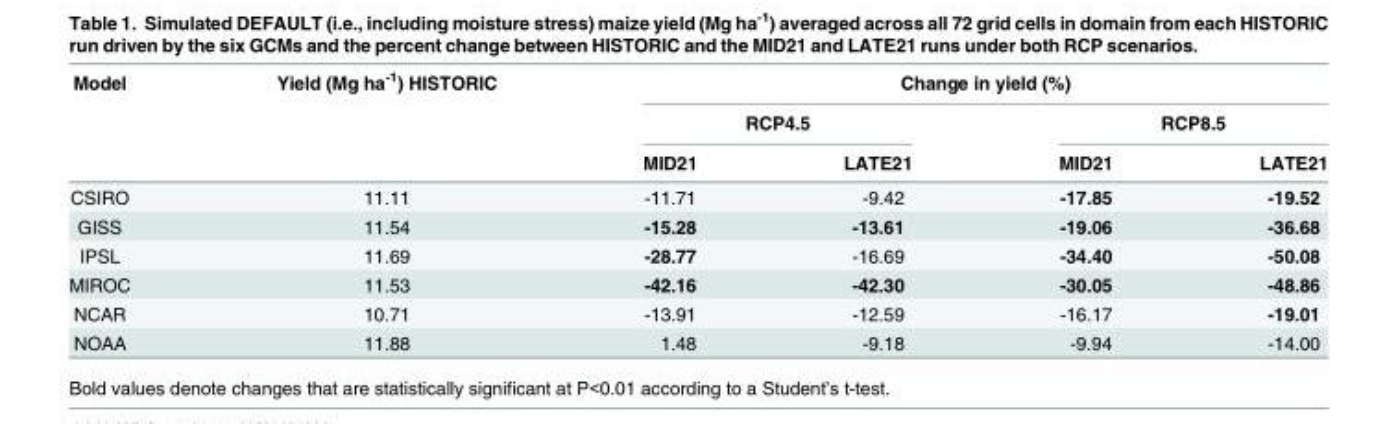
<table><thead><tr><td rowspan="3">Model</td><td rowspan="3">Yield (Mg ha<sup>-1</sup>) HISTORIC</td><td colspan="4">Change in yield (%)</td></tr><tr><td colspan="2">RCP4.5</td><td colspan="2">RCP8.5</td></tr><tr><td>MID21</td><td>LATE21</td><td>MID21</td><td>LATE21</td></tr></thead><tbody><tr><td>CSIRO</td><td>11.11</td><td>-11.71</td><td>-9.42</td><td>-17.85</td><td>-19.52</td></tr><tr><td>GISS</td><td>11.54</td><td>-15.28</td><td>-13.61</td><td>-19.06</td><td>-36.68</td></tr><tr><td>IPSL</td><td>11.69</td><td>-28.77</td><td>-16.69</td><td>-34.40</td><td>-50.08</td></tr><tr><td>MIROC</td><td>11.53</td><td>-42.16</td><td>-42.30</td><td>-30.05</td><td>-48.86</td></tr><tr><td>NCAR</td><td>10.71</td><td>-13.91</td><td>-12.59</td><td>-16.17</td><td>-19.01</td></tr><tr><td>NOAA</td><td>11.88</td><td>1.48</td><td>-9.18</td><td>-9.94</td><td>-14.00</td></tr></tbody></table>